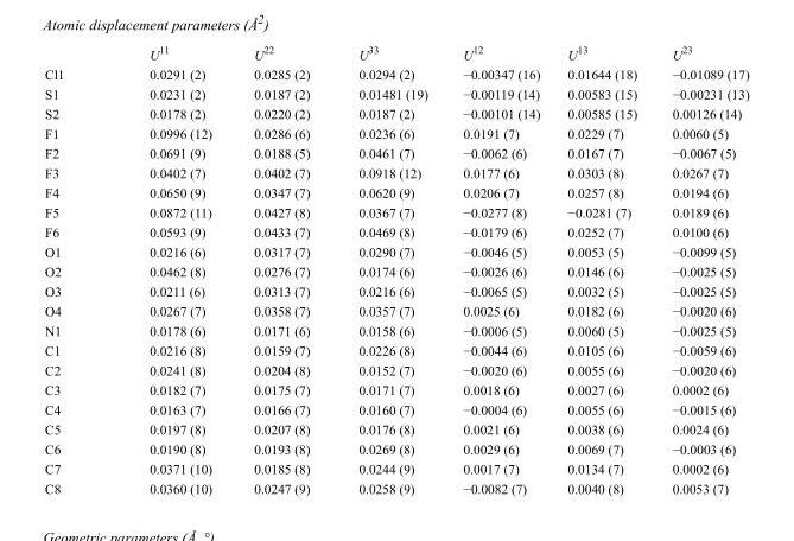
<table><thead><tr><td></td><td>U<sup>11</sup></td><td>U<sup>22</sup></td><td>U<sup>33</sup></td><td>U<sup>12</sup></td><td>U<sup>13</sup></td><td>U<sup>23</sup></td></tr></thead><tbody><tr><td>Cl1</td><td>0.0291 (2)</td><td>0.0285 (2)</td><td>0.0294 (2)</td><td>−0.00347 (16)</td><td>0.01644 (18)</td><td>−0.01089 (17)</td></tr><tr><td>S1</td><td>0.0231 (2)</td><td>0.0187 (2)</td><td>0.01481 (19)</td><td>−0.00119 (14)</td><td>0.00583 (15)</td><td>−0.00231 (13)</td></tr><tr><td>S2</td><td>0.0178 (2)</td><td>0.0220 (2)</td><td>0.0187 (2)</td><td>−0.00101 (14)</td><td>0.00585 (15)</td><td>0.00126 (14)</td></tr><tr><td>F1</td><td>0.0996 (12)</td><td>0.0286 (6)</td><td>0.0236 (6)</td><td>0.0191 (7)</td><td>0.0229 (7)</td><td>0.0060 (5)</td></tr><tr><td>F2</td><td>0.0691 (9)</td><td>0.0188 (5)</td><td>0.0461 (7)</td><td>−0.0062 (6)</td><td>0.0167 (7)</td><td>−0.0067 (5)</td></tr><tr><td>F3</td><td>0.0402 (7)</td><td>0.0402 (7)</td><td>0.0918 (12)</td><td>0.0177 (6)</td><td>0.0303 (8)</td><td>0.0267 (7)</td></tr><tr><td>F4</td><td>0.0650 (9)</td><td>0.0347 (7)</td><td>0.0620 (9)</td><td>0.0206 (7)</td><td>0.0257 (8)</td><td>0.0194 (6)</td></tr><tr><td>F5</td><td>0.0872 (11)</td><td>0.0427 (8)</td><td>0.0367 (7)</td><td>−0.0277 (8)</td><td>−0.0281 (7)</td><td>0.0189 (6)</td></tr><tr><td>F6</td><td>0.0593 (9)</td><td>0.0433 (7)</td><td>0.0469 (8)</td><td>−0.0179 (6)</td><td>0.0252 (7)</td><td>0.0100 (6)</td></tr><tr><td>O1</td><td>0.0216 (6)</td><td>0.0317 (7)</td><td>0.0290 (7)</td><td>−0.0046 (5)</td><td>0.0053 (5)</td><td>−0.0099 (5)</td></tr><tr><td>O2</td><td>0.0462 (8)</td><td>0.0276 (7)</td><td>0.0174 (6)</td><td>−0.0026 (6)</td><td>0.0146 (6)</td><td>−0.0025 (5)</td></tr><tr><td>O3</td><td>0.0211 (6)</td><td>0.0313 (7)</td><td>0.0216 (6)</td><td>−0.0065 (5)</td><td>0.0032 (5)</td><td>−0.0025 (5)</td></tr><tr><td>O4</td><td>0.0267 (7)</td><td>0.0358 (7)</td><td>0.0357 (7)</td><td>0.0025 (6)</td><td>0.0182 (6)</td><td>−0.0020 (6)</td></tr><tr><td>N1</td><td>0.0178 (6)</td><td>0.0171 (6)</td><td>0.0158 (6)</td><td>−0.0006 (5)</td><td>0.0060 (5)</td><td>−0.0025 (5)</td></tr><tr><td>C1</td><td>0.0216 (8)</td><td>0.0159 (7)</td><td>0.0226 (8)</td><td>−0.0044 (6)</td><td>0.0105 (6)</td><td>−0.0059 (6)</td></tr><tr><td>C2</td><td>0.0241 (8)</td><td>0.0204 (8)</td><td>0.0152 (7)</td><td>−0.0020 (6)</td><td>0.0055 (6)</td><td>−0.0020 (6)</td></tr><tr><td>C3</td><td>0.0182 (7)</td><td>0.0175 (7)</td><td>0.0171 (7)</td><td>0.0018 (6)</td><td>0.0027 (6)</td><td>0.0002 (6)</td></tr><tr><td>C4</td><td>0.0163 (7)</td><td>0.0166 (7)</td><td>0.0160 (7)</td><td>−0.0004 (6)</td><td>0.0055 (6)</td><td>−0.0015 (6)</td></tr><tr><td>C5</td><td>0.0197 (8)</td><td>0.0207 (8)</td><td>0.0176 (8)</td><td>0.0021 (6)</td><td>0.0038 (6)</td><td>0.0024 (6)</td></tr><tr><td>C6</td><td>0.0190 (8)</td><td>0.0193 (8)</td><td>0.0269 (8)</td><td>0.0029 (6)</td><td>0.0069 (7)</td><td>−0.0003 (6)</td></tr><tr><td>C7</td><td>0.0371 (10)</td><td>0.0185 (8)</td><td>0.0244 (9)</td><td>0.0017 (7)</td><td>0.0134 (7)</td><td>0.0002 (6)</td></tr><tr><td>C8</td><td>0.0360 (10)</td><td>0.0247 (9)</td><td>0.0258 (9)</td><td>−0.0082 (7)</td><td>0.0040 (8)</td><td>0.0053 (7)</td></tr></tbody></table>